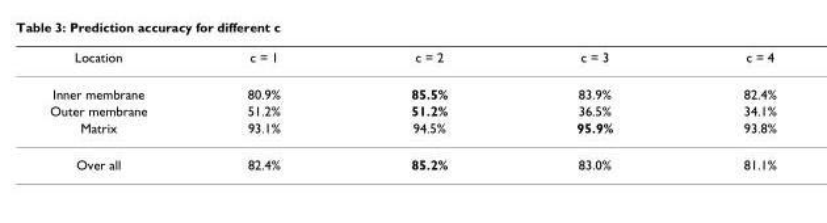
<table><thead><tr><td>Location</td><td>c = 1</td><td>c = 2</td><td>c = 3</td><td>c = 4</td></tr></thead><tbody><tr><td>Inner membrane</td><td>80.9%</td><td>85.5%</td><td>83.9%</td><td>82.4%</td></tr><tr><td>Outer membrane</td><td>51.2%</td><td>51.2%</td><td>36.5%</td><td>34.1%</td></tr><tr><td>Matrix</td><td>93.1%</td><td>94.5%</td><td>95.9%</td><td>93.8%</td></tr><tr><td>Over all</td><td>82.4%</td><td>85.2%</td><td>83.0%</td><td>81.1%</td></tr></tbody></table>